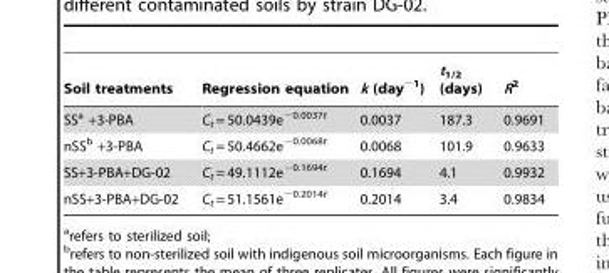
<table><thead><tr><td>Soil treatments</td><td>Regression equation</td><td>k (day<sup>−1</sup>)</td><td>t<sub>1/2</sub> (days)</td><td>R<sup>2</sup></td></tr></thead><tbody><tr><td>SS<sup>a</sup> +3-PBA</td><td>C<sub>t</sub> = 50.0439e<sup>−0.0037t</sup></td><td>0.0037</td><td>187.3</td><td>0.9691</td></tr><tr><td>nSS<sup>b</sup> +3-PBA</td><td>C<sub>t</sub> = 50.4662e<sup>−0.0068t</sup></td><td>0.0068</td><td>101.9</td><td>0.9633</td></tr><tr><td>SS+3-PBA+DG-02</td><td>C<sub>t</sub> = 49.1112e<sup>−0.1694t</sup></td><td>0.1694</td><td>4.1</td><td>0.9932</td></tr><tr><td>nSS+3-PBA+DG-02</td><td>C<sub>t</sub> = 51.1561e<sup>−0.2014t</sup></td><td>0.2014</td><td>3.4</td><td>0.9834</td></tr></tbody></table>